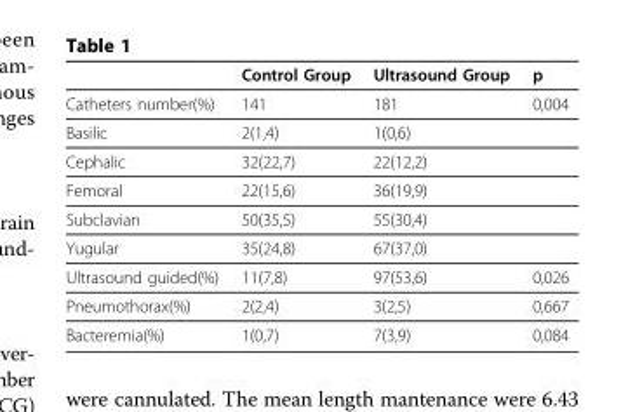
<table><thead><tr><td></td><td>Control Group</td><td>Ultrasound Group</td><td>p</td></tr></thead><tbody><tr><td>Catheters number(%)</td><td>141</td><td>181</td><td>0,004</td></tr><tr><td>Basilic</td><td>2(1,4)</td><td>1(0,6)</td><td></td></tr><tr><td>Cephalic</td><td>32(22,7)</td><td>22(12,2)</td><td></td></tr><tr><td>Femoral</td><td>22(15,6)</td><td>36(19,9)</td><td></td></tr><tr><td>Subclavian</td><td>50(35,5)</td><td>55(30,4)</td><td></td></tr><tr><td>Yugular</td><td>35(24,8)</td><td>67(37,0)</td><td></td></tr><tr><td>Ultrasound guided(%)</td><td>11(7,8)</td><td>97(53,6)</td><td>0,026</td></tr><tr><td>Pneumothorax(%)</td><td>2(2,4)</td><td>3(2,5)</td><td>0,667</td></tr><tr><td>Bacteremia(%)</td><td>1(0,7)</td><td>7(3,9)</td><td>0,084</td></tr></tbody></table>